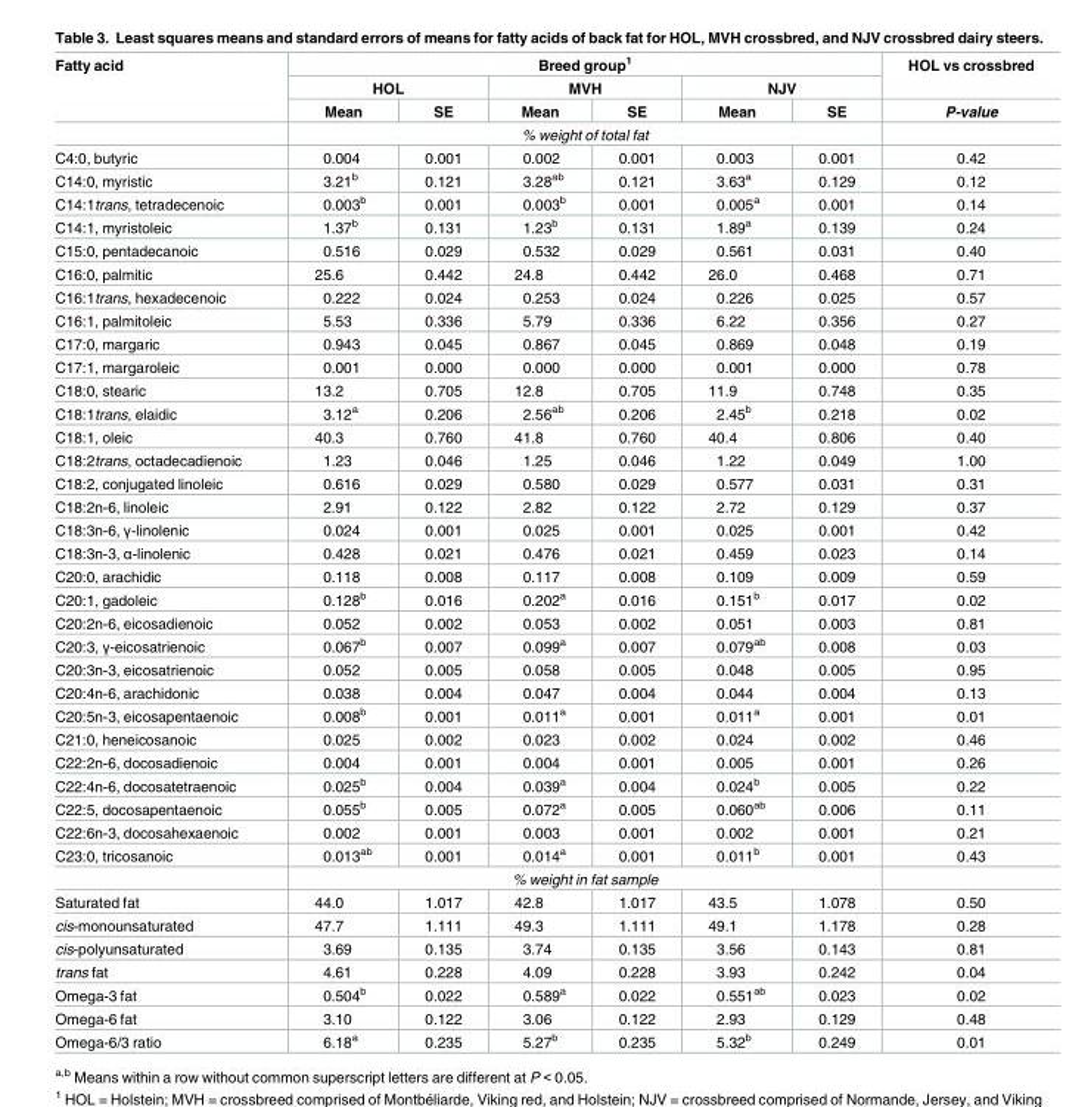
<table><thead><tr><td rowspan="3">Fatty acid</td><td colspan="6">Breed group<sup>1</sup></td><td rowspan="3">HOL vs crossbred P-value</td></tr><tr><td colspan="2">HOL</td><td colspan="2">MVH</td><td colspan="2">NJV</td></tr><tr><td>Mean</td><td>SE</td><td>Mean</td><td>SE</td><td>Mean</td><td>SE</td></tr></thead><tbody><tr><td></td><td colspan="6">% weight of total fat</td><td></td></tr><tr><td>C4:0, butyric</td><td>0.004</td><td>0.001</td><td>0.002</td><td>0.001</td><td>0.003</td><td>0.001</td><td>0.42</td></tr><tr><td>C14:0, myristic</td><td>3.21<sup>b</sup></td><td>0.121</td><td>3.28<sup>ab</sup></td><td>0.121</td><td>3.63<sup>a</sup></td><td>0.129</td><td>0.12</td></tr><tr><td>C14:1trans, tetradecenoic</td><td>0.003<sup>b</sup></td><td>0.001</td><td>0.003<sup>b</sup></td><td>0.001</td><td>0.005<sup>a</sup></td><td>0.001</td><td>0.14</td></tr><tr><td>C14:1, myristoleic</td><td>1.37<sup>b</sup></td><td>0.131</td><td>1.23<sup>b</sup></td><td>0.131</td><td>1.89<sup>a</sup></td><td>0.139</td><td>0.24</td></tr><tr><td>C15:0, pentadecanoic</td><td>0.516</td><td>0.029</td><td>0.532</td><td>0.029</td><td>0.561</td><td>0.031</td><td>0.40</td></tr><tr><td>C16:0, palmitic</td><td>25.6</td><td>0.442</td><td>24.8</td><td>0.442</td><td>26.0</td><td>0.468</td><td>0.71</td></tr><tr><td>C16:1trans, hexadecenoic</td><td>0.222</td><td>0.024</td><td>0.253</td><td>0.024</td><td>0.226</td><td>0.025</td><td>0.57</td></tr><tr><td>C16:1, palmitoleic</td><td>5.53</td><td>0.336</td><td>5.79</td><td>0.336</td><td>6.22</td><td>0.356</td><td>0.27</td></tr><tr><td>C17:0, margaric</td><td>0.943</td><td>0.045</td><td>0.867</td><td>0.045</td><td>0.869</td><td>0.048</td><td>0.19</td></tr><tr><td>C17:1, margaroleic</td><td>0.001</td><td>0.000</td><td>0.000</td><td>0.000</td><td>0.001</td><td>0.000</td><td>0.78</td></tr><tr><td>C18:0, stearic</td><td>13.2</td><td>0.705</td><td>12.8</td><td>0.705</td><td>11.9</td><td>0.748</td><td>0.35</td></tr><tr><td>C18:1trans, elaidic</td><td>3.12<sup>a</sup></td><td>0.206</td><td>2.56<sup>ab</sup></td><td>0.206</td><td>2.45<sup>b</sup></td><td>0.218</td><td>0.02</td></tr><tr><td>C18:1, oleic</td><td>40.3</td><td>0.760</td><td>41.8</td><td>0.760</td><td>40.4</td><td>0.806</td><td>0.40</td></tr><tr><td>C18:2trans, octadecadienoic</td><td>1.23</td><td>0.046</td><td>1.25</td><td>0.046</td><td>1.22</td><td>0.049</td><td>1.00</td></tr><tr><td>C18:2, conjugated linoleic</td><td>0.616</td><td>0.029</td><td>0.580</td><td>0.029</td><td>0.577</td><td>0.031</td><td>0.31</td></tr><tr><td>C18:2n-6, linoleic</td><td>2.91</td><td>0.122</td><td>2.82</td><td>0.122</td><td>2.72</td><td>0.129</td><td>0.37</td></tr><tr><td>C18:3n-6, γ-linolenic</td><td>0.024</td><td>0.001</td><td>0.025</td><td>0.001</td><td>0.025</td><td>0.001</td><td>0.42</td></tr><tr><td>C18:3n-3, α-linolenic</td><td>0.428</td><td>0.021</td><td>0.476</td><td>0.021</td><td>0.459</td><td>0.023</td><td>0.14</td></tr><tr><td>C20:0, arachidic</td><td>0.118</td><td>0.008</td><td>0.117</td><td>0.008</td><td>0.109</td><td>0.009</td><td>0.59</td></tr><tr><td>C20:1, gadoleic</td><td>0.128<sup>b</sup></td><td>0.016</td><td>0.202<sup>a</sup></td><td>0.016</td><td>0.151<sup>b</sup></td><td>0.017</td><td>0.02</td></tr><tr><td>C20:2n-6, eicosadienoic</td><td>0.052</td><td>0.002</td><td>0.053</td><td>0.002</td><td>0.051</td><td>0.003</td><td>0.81</td></tr><tr><td>C20:3, γ-eicosatrienoic</td><td>0.067<sup>b</sup></td><td>0.007</td><td>0.099<sup>a</sup></td><td>0.007</td><td>0.079<sup>ab</sup></td><td>0.008</td><td>0.03</td></tr><tr><td>C20:3n-3, eicosatrienoic</td><td>0.052</td><td>0.005</td><td>0.058</td><td>0.005</td><td>0.048</td><td>0.005</td><td>0.95</td></tr><tr><td>C20:4n-6, arachidonic</td><td>0.038</td><td>0.004</td><td>0.047</td><td>0.004</td><td>0.044</td><td>0.004</td><td>0.13</td></tr><tr><td>C20:5n-3, eicosapentaenoic</td><td>0.008<sup>b</sup></td><td>0.001</td><td>0.011<sup>a</sup></td><td>0.001</td><td>0.011<sup>a</sup></td><td>0.001</td><td>0.01</td></tr><tr><td>C21:0, heneicosanoic</td><td>0.025</td><td>0.002</td><td>0.023</td><td>0.002</td><td>0.024</td><td>0.002</td><td>0.46</td></tr><tr><td>C22:2n-6, docosadienoic</td><td>0.004</td><td>0.001</td><td>0.004</td><td>0.001</td><td>0.005</td><td>0.001</td><td>0.26</td></tr><tr><td>C22:4n-6, docosatetraenoic</td><td>0.025<sup>b</sup></td><td>0.004</td><td>0.039<sup>a</sup></td><td>0.004</td><td>0.024<sup>b</sup></td><td>0.005</td><td>0.22</td></tr><tr><td>C22:5, docosapentaenoic</td><td>0.055<sup>b</sup></td><td>0.005</td><td>0.072<sup>a</sup></td><td>0.005</td><td>0.060<sup>ab</sup></td><td>0.006</td><td>0.11</td></tr><tr><td>C22:6n-3, docosahexaenoic</td><td>0.002</td><td>0.001</td><td>0.003</td><td>0.001</td><td>0.002</td><td>0.001</td><td>0.21</td></tr><tr><td rowspan="2">C23:0, tricosanoic</td><td>0.013<sup>ab</sup></td><td>0.001</td><td>0.014<sup>a</sup></td><td>0.001</td><td>0.011<sup>b</sup></td><td>0.001</td><td>0.43</td></tr><tr><td colspan="6">% weight in fat sample</td><td></td></tr><tr><td>Saturated fat</td><td>44.0</td><td>1.017</td><td>42.8</td><td>1.017</td><td>43.5</td><td>1.078</td><td>0.50</td></tr><tr><td>cis-monounsaturated</td><td>47.7</td><td>1.111</td><td>49.3</td><td>1.111</td><td>49.1</td><td>1.178</td><td>0.28</td></tr><tr><td>cis-polyunsaturated</td><td>3.69</td><td>0.135</td><td>3.74</td><td>0.135</td><td>3.56</td><td>0.143</td><td>0.81</td></tr><tr><td>trans fat</td><td>4.61</td><td>0.228</td><td>4.09</td><td>0.228</td><td>3.93</td><td>0.242</td><td>0.04</td></tr><tr><td>Omega-3 fat</td><td>0.504<sup>b</sup></td><td>0.022</td><td>0.589<sup>a</sup></td><td>0.022</td><td>0.551<sup>ab</sup></td><td>0.023</td><td>0.02</td></tr><tr><td>Omega-6 fat</td><td>3.10</td><td>0.122</td><td>3.06</td><td>0.122</td><td>2.93</td><td>0.129</td><td>0.48</td></tr><tr><td>Omega-6/3 ratio</td><td>6.18<sup>a</sup></td><td>0.235</td><td>5.27<sup>b</sup></td><td>0.235</td><td>5.32<sup>b</sup></td><td>0.249</td><td>0.01</td></tr></tbody></table>